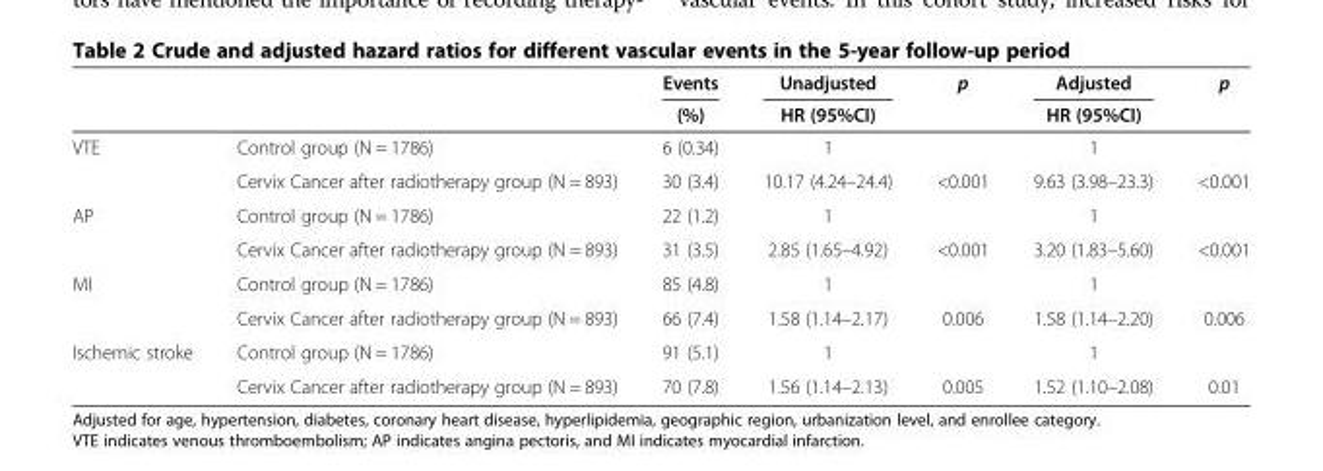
<table><thead><tr><td rowspan="2"></td><td rowspan="2"></td><td rowspan="2">Events (%)</td><td rowspan="2">Unadjusted HR (95%CI)</td><td rowspan="2">p</td><td rowspan="2">Adjusted HR (95%CI)</td><td rowspan="2">p</td></tr><tr></tr></thead><tbody><tr><td rowspan="2">VTE</td><td>Control group (N = 1786)</td><td>6 (0.34)</td><td>1</td><td></td><td>1</td><td></td></tr><tr><td>Cervix Cancer after radiotherapy group (N = 893)</td><td>30 (3.4)</td><td>10.17 (4.24–24.4)</td><td>&lt;0.001</td><td>9.63 (3.98–23.3)</td><td>&lt;0.001</td></tr><tr><td rowspan="2">AP</td><td>Control group (N = 1786)</td><td>22 (1.2)</td><td>1</td><td></td><td>1</td><td></td></tr><tr><td>Cervix Cancer after radiotherapy group (N = 893)</td><td>31 (3.5)</td><td>2.85 (1.65–4.92)</td><td>&lt;0.001</td><td>3.20 (1.83–5.60)</td><td>&lt;0.001</td></tr><tr><td rowspan="2">MI</td><td>Control group (N = 1786)</td><td>85 (4.8)</td><td>1</td><td></td><td>1</td><td></td></tr><tr><td>Cervix Cancer after radiotherapy group (N = 893)</td><td>66 (7.4)</td><td>1.58 (1.14–2.17)</td><td>0.006</td><td>1.58 (1.14–2.20)</td><td>0.006</td></tr><tr><td rowspan="2">Ischemic stroke</td><td>Control group (N = 1786)</td><td>91 (5.1)</td><td>1</td><td></td><td>1</td><td></td></tr><tr><td>Cervix Cancer after radiotherapy group (N = 893)</td><td>70 (7.8)</td><td>1.56 (1.14–2.13)</td><td>0.005</td><td>1.52 (1.10–2.08)</td><td>0.01</td></tr></tbody></table>